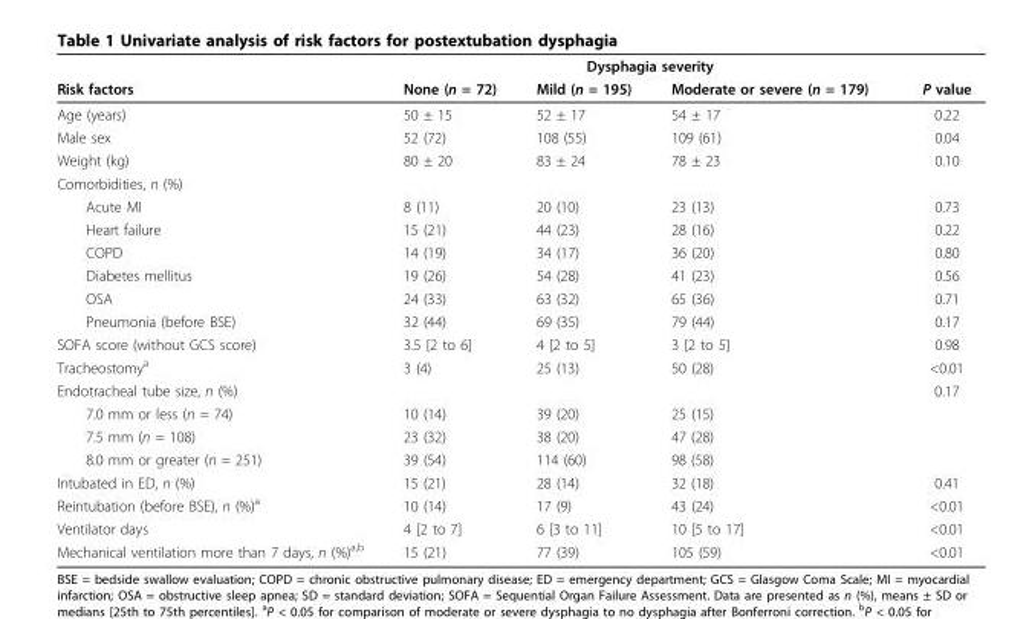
<table><thead><tr><td rowspan="2">Risk factors</td><td colspan="3">Dysphagia severity</td><td rowspan="2">P value</td></tr><tr><td>None (n = 72)</td><td>Mild (n = 195)</td><td>Moderate or severe (n = 179)</td></tr></thead><tbody><tr><td>Age (years)</td><td>50 ± 15</td><td>52 ± 17</td><td>54 ± 17</td><td>0.22</td></tr><tr><td>Male sex</td><td>52 (72)</td><td>108 (55)</td><td>109 (61)</td><td>0.04</td></tr><tr><td>Weight (kg)</td><td>80 ± 20</td><td>83 ± 24</td><td>78 ± 23</td><td>0.10</td></tr><tr><td colspan="5">Comorbidities, n (%)</td></tr><tr><td>Acute MI</td><td>8 (11)</td><td>20 (10)</td><td>23 (13)</td><td>0.73</td></tr><tr><td>Heart failure</td><td>15 (21)</td><td>44 (23)</td><td>28 (16)</td><td>0.22</td></tr><tr><td>COPD</td><td>14 (19)</td><td>34 (17)</td><td>36 (20)</td><td>0.80</td></tr><tr><td>Diabetes mellitus</td><td>19 (26)</td><td>54 (28)</td><td>41 (23)</td><td>0.56</td></tr><tr><td>OSA</td><td>24 (33)</td><td>63 (32)</td><td>65 (36)</td><td>0.71</td></tr><tr><td>Pneumonia (before BSE)</td><td>32 (44)</td><td>69 (35)</td><td>79 (44)</td><td>0.17</td></tr><tr><td>SOFA score (without GCS score)</td><td>3.5 [2 to 6]</td><td>4 [2 to 5]</td><td>3 [2 to 5]</td><td>0.98</td></tr><tr><td>Tracheostomy<sup>a</sup></td><td>3 (4)</td><td>25 (13)</td><td>50 (28)</td><td>&lt;0.01</td></tr><tr><td>Endotracheal tube size, n (%)</td><td></td><td></td><td></td><td>0.17</td></tr><tr><td>7.0 mm or less (n = 74)</td><td>10 (14)</td><td>39 (20)</td><td>25 (15)</td><td></td></tr><tr><td>7.5 mm (n = 108)</td><td>23 (32)</td><td>38 (20)</td><td>47 (28)</td><td></td></tr><tr><td>8.0 mm or greater (n = 251)</td><td>39 (54)</td><td>114 (60)</td><td>98 (58)</td><td></td></tr><tr><td>Intubated in ED, n (%)</td><td>15 (21)</td><td>28 (14)</td><td>32 (18)</td><td>0.41</td></tr><tr><td>Reintubation (before BSE), n (%)<sup>a</sup></td><td>10 (14)</td><td>17 (9)</td><td>43 (24)</td><td>&lt;0.01</td></tr><tr><td>Ventilator days</td><td>4 [2 to 7]</td><td>6 [3 to 11]</td><td>10 [5 to 17]</td><td>&lt;0.01</td></tr><tr><td>Mechanical ventilation more than 7 days, n (%)<sup>a,b</sup></td><td>15 (21)</td><td>77 (39)</td><td>105 (59)</td><td>&lt;0.01</td></tr></tbody></table>